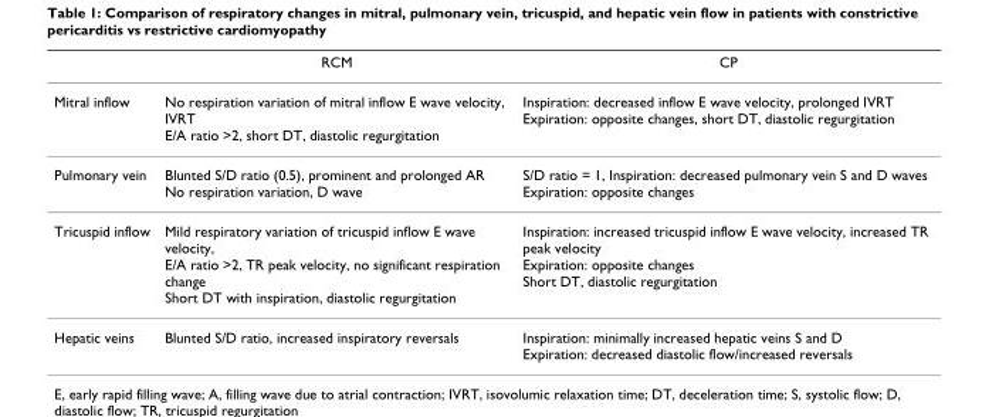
<table><thead><tr><td></td><td>RCM</td><td>CP</td></tr></thead><tbody><tr><td>Mitral inflow</td><td>No respiration variation of mitral inflow E wave velocity, IVRT E/A ratio &gt;2, short DT, diastolic regurgitation</td><td>Inspiration: decreased inflow E wave velocity, prolonged IVRT Expiration: opposite changes, short DT, diastolic regurgitation</td></tr><tr><td>Pulmonary vein</td><td>Blunted S/D ratio (0.5), prominent and prolonged AR No respiration variation, D wave</td><td>S/D ratio = 1, Inspiration: decreased pulmonary vein S and D waves Expiration: opposite changes</td></tr><tr><td>Tricuspid inflow</td><td>Mild respiratory variation of tricuspid inflow E wave velocity, E/A ratio &gt;2, TR peak velocity, no significant respiration change Short DT with inspiration, diastolic regurgitation</td><td>Inspiration: increased tricuspid inflow E wave velocity, increased TR peak velocity Expiration: opposite changes Short DT, diastolic regurgitation</td></tr><tr><td>Hepatic veins</td><td>Blunted S/D ratio, increased inspiratory reversals</td><td>Inspiration: minimally increased hepatic veins S and D Expiration: decreased diastolic flow/increased reversals</td></tr></tbody></table>